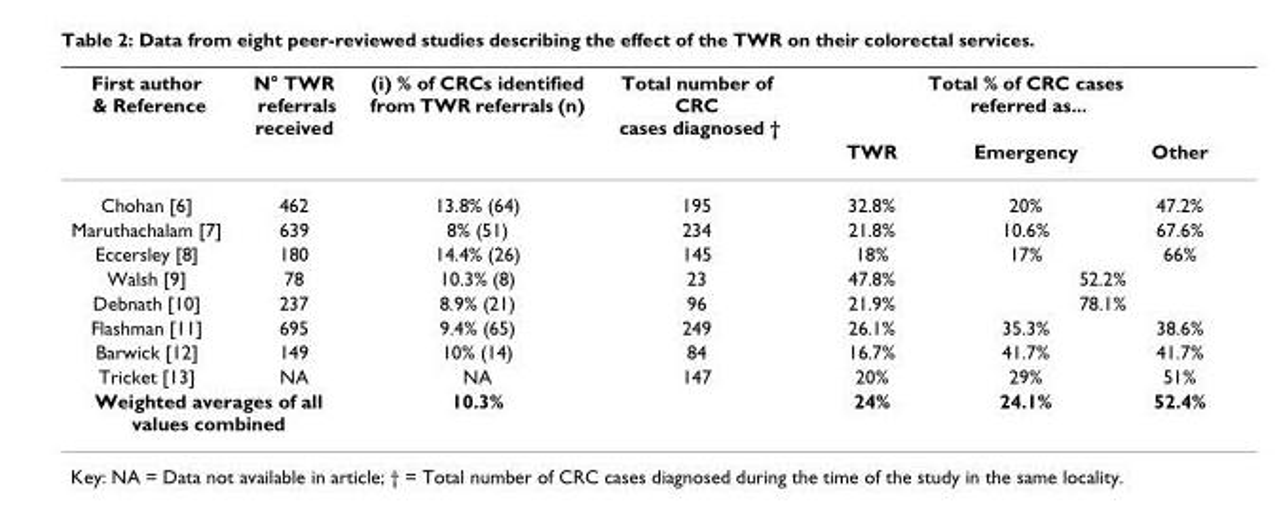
<table><thead><tr><td rowspan="2">First author &amp; Reference</td><td rowspan="2">N° TWR referrals received</td><td rowspan="2">(i) % of CRCs identified from TWR referrals (n)</td><td rowspan="2">Total number of CRC cases diagnosed †</td><td colspan="3">Total % of CRC cases referred as...</td></tr><tr><td>TWR</td><td>Emergency</td><td>Other</td></tr></thead><tbody><tr><td>Chohan [6]</td><td>462</td><td>13.8% (64)</td><td>195</td><td>32.8%</td><td>20%</td><td>47.2%</td></tr><tr><td>Maruthachalam [7]</td><td>639</td><td>8% (51)</td><td>234</td><td>21.8%</td><td>10.6%</td><td>67.6%</td></tr><tr><td>Eccersley [8]</td><td>180</td><td>14.4% (26)</td><td>145</td><td>18%</td><td>17%</td><td>66%</td></tr><tr><td>Walsh [9]</td><td>78</td><td>10.3% (8)</td><td>23</td><td>47.8%</td><td colspan="2">52.2%</td></tr><tr><td>Debnath [10]</td><td>237</td><td>8.9% (21)</td><td>96</td><td>21.9%</td><td colspan="2">78.1%</td></tr><tr><td>Flashman [11]</td><td>695</td><td>9.4% (65)</td><td>249</td><td>26.1%</td><td>35.3%</td><td>38.6%</td></tr><tr><td>Barwick [12]</td><td>149</td><td>10% (14)</td><td>84</td><td>16.7%</td><td>41.7%</td><td>41.7%</td></tr><tr><td>Tricket [13]</td><td>NA</td><td>NA</td><td>147</td><td>20%</td><td>29%</td><td>51%</td></tr><tr><td colspan="2">Weighted averages of all values combined</td><td>10.3%</td><td></td><td>24%</td><td>24.1%</td><td>52.4%</td></tr></tbody></table>